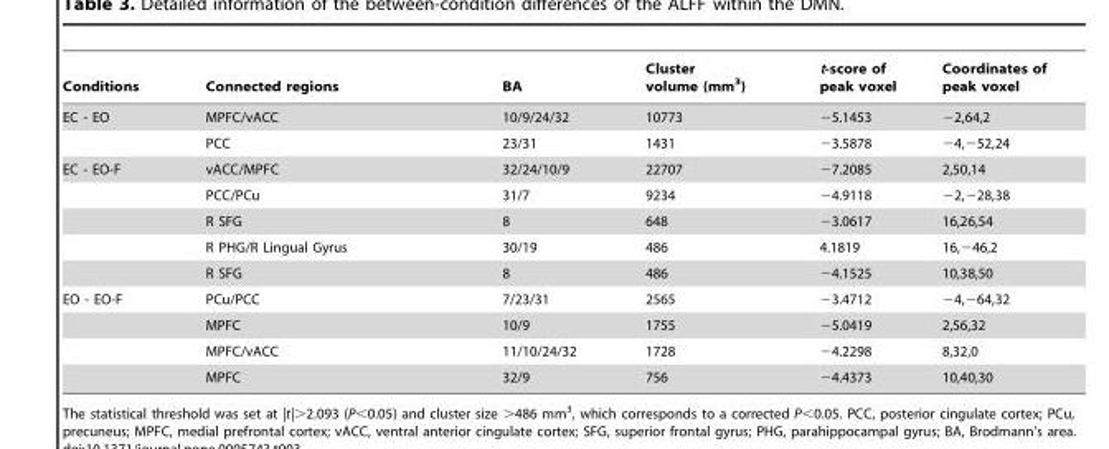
<table><thead><tr><td>Conditions</td><td>Connected regions</td><td>BA</td><td>Cluster volume (mm<sup>3</sup>)</td><td>t-score of peak voxel</td><td>Coordinates of peak voxel</td></tr></thead><tbody><tr><td rowspan="2">EC - EO</td><td>MPFC/vACC</td><td>10/9/24/32</td><td>10773</td><td>−5.1453</td><td>−2,64,2</td></tr><tr><td>PCC</td><td>23/31</td><td>1431</td><td>−3.5878</td><td>−4,−52,24</td></tr><tr><td rowspan="5">EC - EO-F</td><td>vACC/MPFC</td><td>32/24/10/9</td><td>22707</td><td>−7.2085</td><td>2,50,14</td></tr><tr><td>PCC/PCu</td><td>31/7</td><td>9234</td><td>−4.9118</td><td>−2,−28,38</td></tr><tr><td>R SFG</td><td>8</td><td>648</td><td>−3.0617</td><td>16,26,54</td></tr><tr><td>R PHG/R Lingual Gyrus</td><td>30/19</td><td>486</td><td>4.1819</td><td>16,−46,2</td></tr><tr><td>R SFG</td><td>8</td><td>486</td><td>−4.1525</td><td>10,38,50</td></tr><tr><td rowspan="4">EO - EO-F</td><td>PCu/PCC</td><td>7/23/31</td><td>2565</td><td>−3.4712</td><td>−4,−64,32</td></tr><tr><td>MPFC</td><td>10/9</td><td>1755</td><td>−5.0419</td><td>2,56,32</td></tr><tr><td>MPFC/vACC</td><td>11/10/24/32</td><td>1728</td><td>−4.2298</td><td>8,32,0</td></tr><tr><td>MPFC</td><td>32/9</td><td>756</td><td>−4.4373</td><td>10,40,30</td></tr></tbody></table>